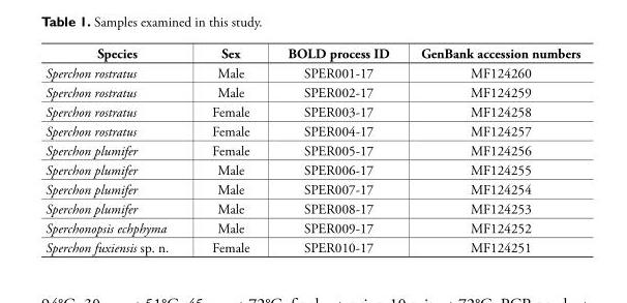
<table><thead><tr><td>Species</td><td>Sex</td><td>BOLD process ID</td><td>GenBank accession numbers</td></tr></thead><tbody><tr><td>Sperchon rostratus</td><td>Male</td><td>SPER001-17</td><td>MF124260</td></tr><tr><td>Sperchon rostratus</td><td>Male</td><td>SPER002-17</td><td>MF124259</td></tr><tr><td>Sperchon rostratus</td><td>Female</td><td>SPER003-17</td><td>MF124258</td></tr><tr><td>Sperchon rostratus</td><td>Female</td><td>SPER004-17</td><td>MF124257</td></tr><tr><td>Sperchon plumifer</td><td>Female</td><td>SPER005-17</td><td>MF124256</td></tr><tr><td>Sperchon plumifer</td><td>Male</td><td>SPER006-17</td><td>MF124255</td></tr><tr><td>Sperchon plumifer</td><td>Male</td><td>SPER007-17</td><td>MF124254</td></tr><tr><td>Sperchon plumifer</td><td>Male</td><td>SPER008-17</td><td>MF124253</td></tr><tr><td>Sperchonopsis echphyma</td><td>Male</td><td>SPER009-17</td><td>MF124252</td></tr><tr><td>Sperchon fuxiensis sp. n.</td><td>Female</td><td>SPER010-17</td><td>MF124251</td></tr></tbody></table>